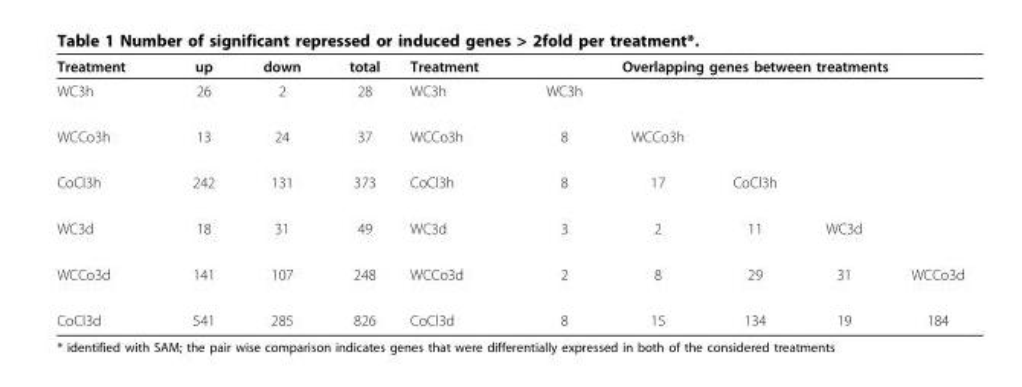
<table><thead><tr><td rowspan="2">Treatment WC3h</td><td rowspan="2">up 26</td><td rowspan="2">down 2</td><td rowspan="2">total 28</td><td rowspan="2">Treatment WC3h</td><td colspan="5">Overlapping genes between treatments</td></tr><tr><td>WC3h</td><td></td><td></td><td></td><td></td></tr></thead><tbody><tr><td>WCCo3h</td><td>13</td><td>24</td><td>37</td><td>WCCo3h</td><td>8</td><td>WCCo3h</td><td></td><td></td><td></td></tr><tr><td>CoCl3h</td><td>242</td><td>131</td><td>373</td><td>CoCl3h</td><td>8</td><td>17</td><td>CoCl3h</td><td></td><td></td></tr><tr><td>WC3d</td><td>18</td><td>31</td><td>49</td><td>WC3d</td><td>3</td><td>2</td><td>11</td><td>WC3d</td><td></td></tr><tr><td>WCCo3d</td><td>141</td><td>107</td><td>248</td><td>WCCo3d</td><td>2</td><td>8</td><td>29</td><td>31</td><td>WCCo3d</td></tr><tr><td>CoCl3d</td><td>541</td><td>285</td><td>826</td><td>CoCl3d</td><td>8</td><td>15</td><td>134</td><td>19</td><td>184</td></tr></tbody></table>